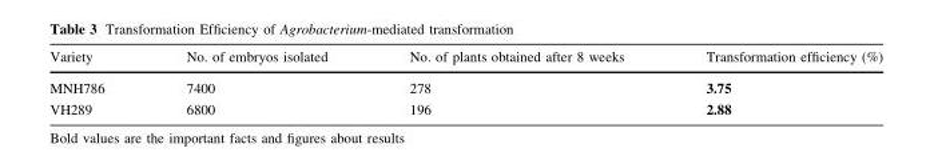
<table><thead><tr><td>Variety</td><td>No. of embryos isolated</td><td>No. of plants obtained after 8 weeks</td><td>Transformation efficiency (%)</td></tr></thead><tbody><tr><td>MNH786</td><td>7400</td><td>278</td><td>3.75</td></tr><tr><td>VH289</td><td>6800</td><td>196</td><td>2.88</td></tr></tbody></table>